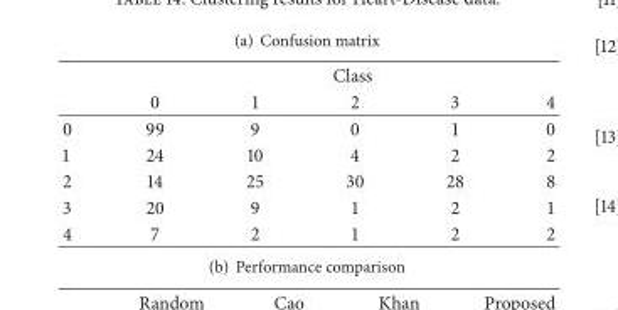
<table><thead><tr><td rowspan="2"></td><td colspan="5">Class</td></tr><tr><td>0</td><td>1</td><td>2</td><td>3</td><td>4</td></tr></thead><tbody><tr><td>0</td><td>99</td><td>9</td><td>0</td><td>1</td><td>0</td></tr><tr><td>1</td><td>24</td><td>10</td><td>4</td><td>2</td><td>2</td></tr><tr><td>2</td><td>14</td><td>25</td><td>30</td><td>28</td><td>8</td></tr><tr><td>3</td><td>20</td><td>9</td><td>1</td><td>2</td><td>1</td></tr><tr><td>4</td><td>7</td><td>2</td><td>1</td><td>2</td><td>2</td></tr></tbody></table>